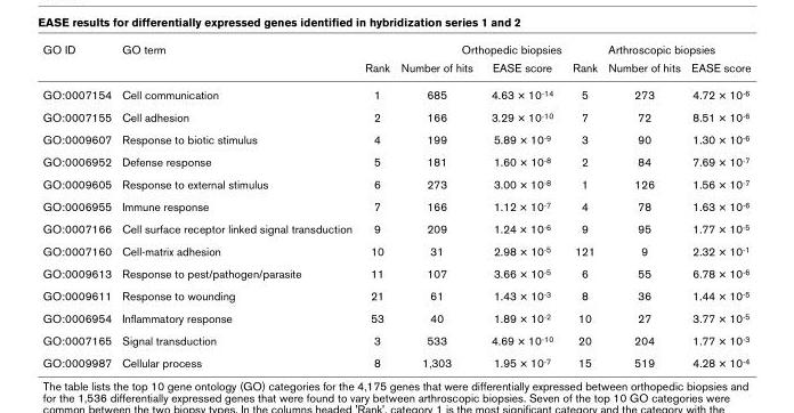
<table><thead><tr><td rowspan="2">GO ID</td><td rowspan="2">GO term</td><td colspan="3">Orthopedic biopsies</td><td colspan="3">Arthroscopic biopsies</td></tr><tr><td>Rank</td><td>Number of hits</td><td>EASE score</td><td>Rank</td><td>Number of hits</td><td>EASE score</td></tr></thead><tbody><tr><td>GO:0007154</td><td>Cell communication</td><td>1</td><td>685</td><td>4.63 × 10-14</td><td>5</td><td>273</td><td>4.72 × 10-6</td></tr><tr><td>GO:0007155</td><td>Cell adhesion</td><td>2</td><td>166</td><td>3.29 × 10-10</td><td>7</td><td>72</td><td>8.51 × 10-6</td></tr><tr><td>GO:0009607</td><td>Response to biotic stimulus</td><td>4</td><td>199</td><td>5.89 × 10-9</td><td>3</td><td>90</td><td>1.30 × 10-6</td></tr><tr><td>GO:0006952</td><td>Defense response</td><td>5</td><td>181</td><td>1.60 × 10-8</td><td>2</td><td>84</td><td>7.69 × 10-7</td></tr><tr><td>GO:0009605</td><td>Response to external stimulus</td><td>6</td><td>273</td><td>3.00 × 10-8</td><td>1</td><td>126</td><td>1.56 × 10-7</td></tr><tr><td>GO:0006955</td><td>Immune response</td><td>7</td><td>166</td><td>1.12 × 10-7</td><td>4</td><td>78</td><td>1.63 × 10-6</td></tr><tr><td>GO:0007166</td><td>Cell surface receptor linked signal transduction</td><td>9</td><td>209</td><td>1.24 × 10-6</td><td>9</td><td>95</td><td>1.77 × 10-5</td></tr><tr><td>GO:0007160</td><td>Cell-matrix adhesion</td><td>10</td><td>31</td><td>2.98 × 10-5</td><td>121</td><td>9</td><td>2.32 × 10-1</td></tr><tr><td>GO:0009613</td><td>Response to pest/pathogen/parasite</td><td>11</td><td>107</td><td>3.66 × 10-5</td><td>6</td><td>55</td><td>6.78 × 10-6</td></tr><tr><td>GO:0009611</td><td>Response to wounding</td><td>21</td><td>61</td><td>1.43 × 10-3</td><td>8</td><td>36</td><td>1.44 × 10-5</td></tr><tr><td>GO:0006954</td><td>Inflammatory response</td><td>53</td><td>40</td><td>1.89 × 10-2</td><td>10</td><td>27</td><td>3.77 × 10-5</td></tr><tr><td>GO:0007165</td><td>Signal transduction</td><td>3</td><td>533</td><td>4.69 × 10-10</td><td>20</td><td>204</td><td>1.77 × 10-3</td></tr><tr><td>GO:0009987</td><td>Cellular process</td><td>8</td><td>1,303</td><td>1.95 × 10-7</td><td>15</td><td>519</td><td>4.28 × 10-4</td></tr></tbody></table>